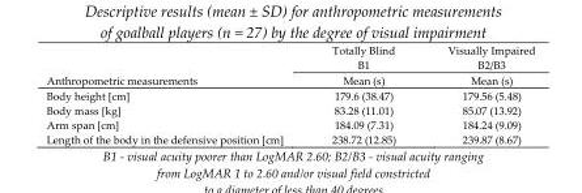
<table><thead><tr><td rowspan="2">Anthropometric measurements</td><td rowspan="2">Totally Blind B1 Mean (s)</td><td rowspan="2">Visually Impaired B2/B3 Mean (s)</td></tr><tr></tr></thead><tbody><tr><td>Body height [cm]</td><td>179.6 (38.47)</td><td>179.56 (5.48)</td></tr><tr><td>Body mass [kg]</td><td>83.28 (11.01)</td><td>85.07 (13.92)</td></tr><tr><td>Arm span [cm]</td><td>184.09 (7.31)</td><td>184.24 (9.09)</td></tr><tr><td>Length of the body in the defensive position [cm]</td><td>238.72 (12.85)</td><td>239.87 (8.67)</td></tr></tbody></table>